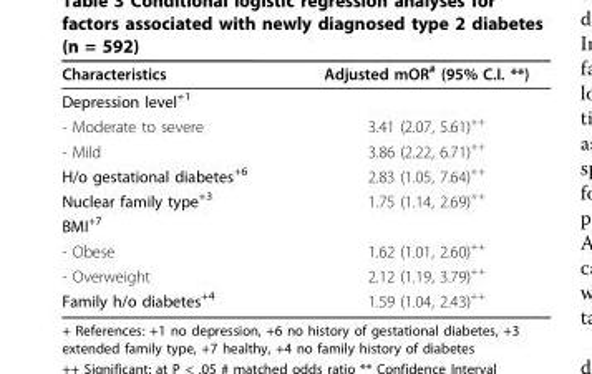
<table><thead><tr><td>Characteristics</td><td>Adjusted mOR<sup>#</sup> (95% C.I. **)</td></tr></thead><tbody><tr><td colspan="2">Depression level<sup>+1</sup></td></tr><tr><td>- Moderate to severe</td><td>3.41 (2.07, 5.61)<sup>++</sup></td></tr><tr><td>- Mild</td><td>3.86 (2.22, 6.71)<sup>++</sup></td></tr><tr><td>H/o gestational diabetes<sup>+6</sup></td><td>2.83 (1.05, 7.64)<sup>++</sup></td></tr><tr><td>Nuclear family type<sup>+3</sup></td><td>1.75 (1.14, 2.69)<sup>++</sup></td></tr><tr><td colspan="2">BMI<sup>+7</sup></td></tr><tr><td>- Obese</td><td>1.62 (1.01, 2.60)<sup>++</sup></td></tr><tr><td>- Overweight</td><td>2.12 (1.19, 3.79)<sup>++</sup></td></tr><tr><td>Family h/o diabetes<sup>+4</sup></td><td>1.59 (1.04, 2.43)<sup>++</sup></td></tr></tbody></table>